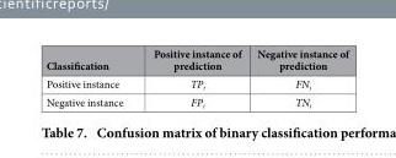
<table><thead><tr><td>Classification</td><td>Positive instance of prediction</td><td>Negative instance of prediction</td></tr></thead><tbody><tr><td>Positive instance</td><td>TP<sub>i</sub></td><td>FN<sub>i</sub></td></tr><tr><td>Negative instance</td><td>FP<sub>i</sub></td><td>TN<sub>i</sub></td></tr></tbody></table>